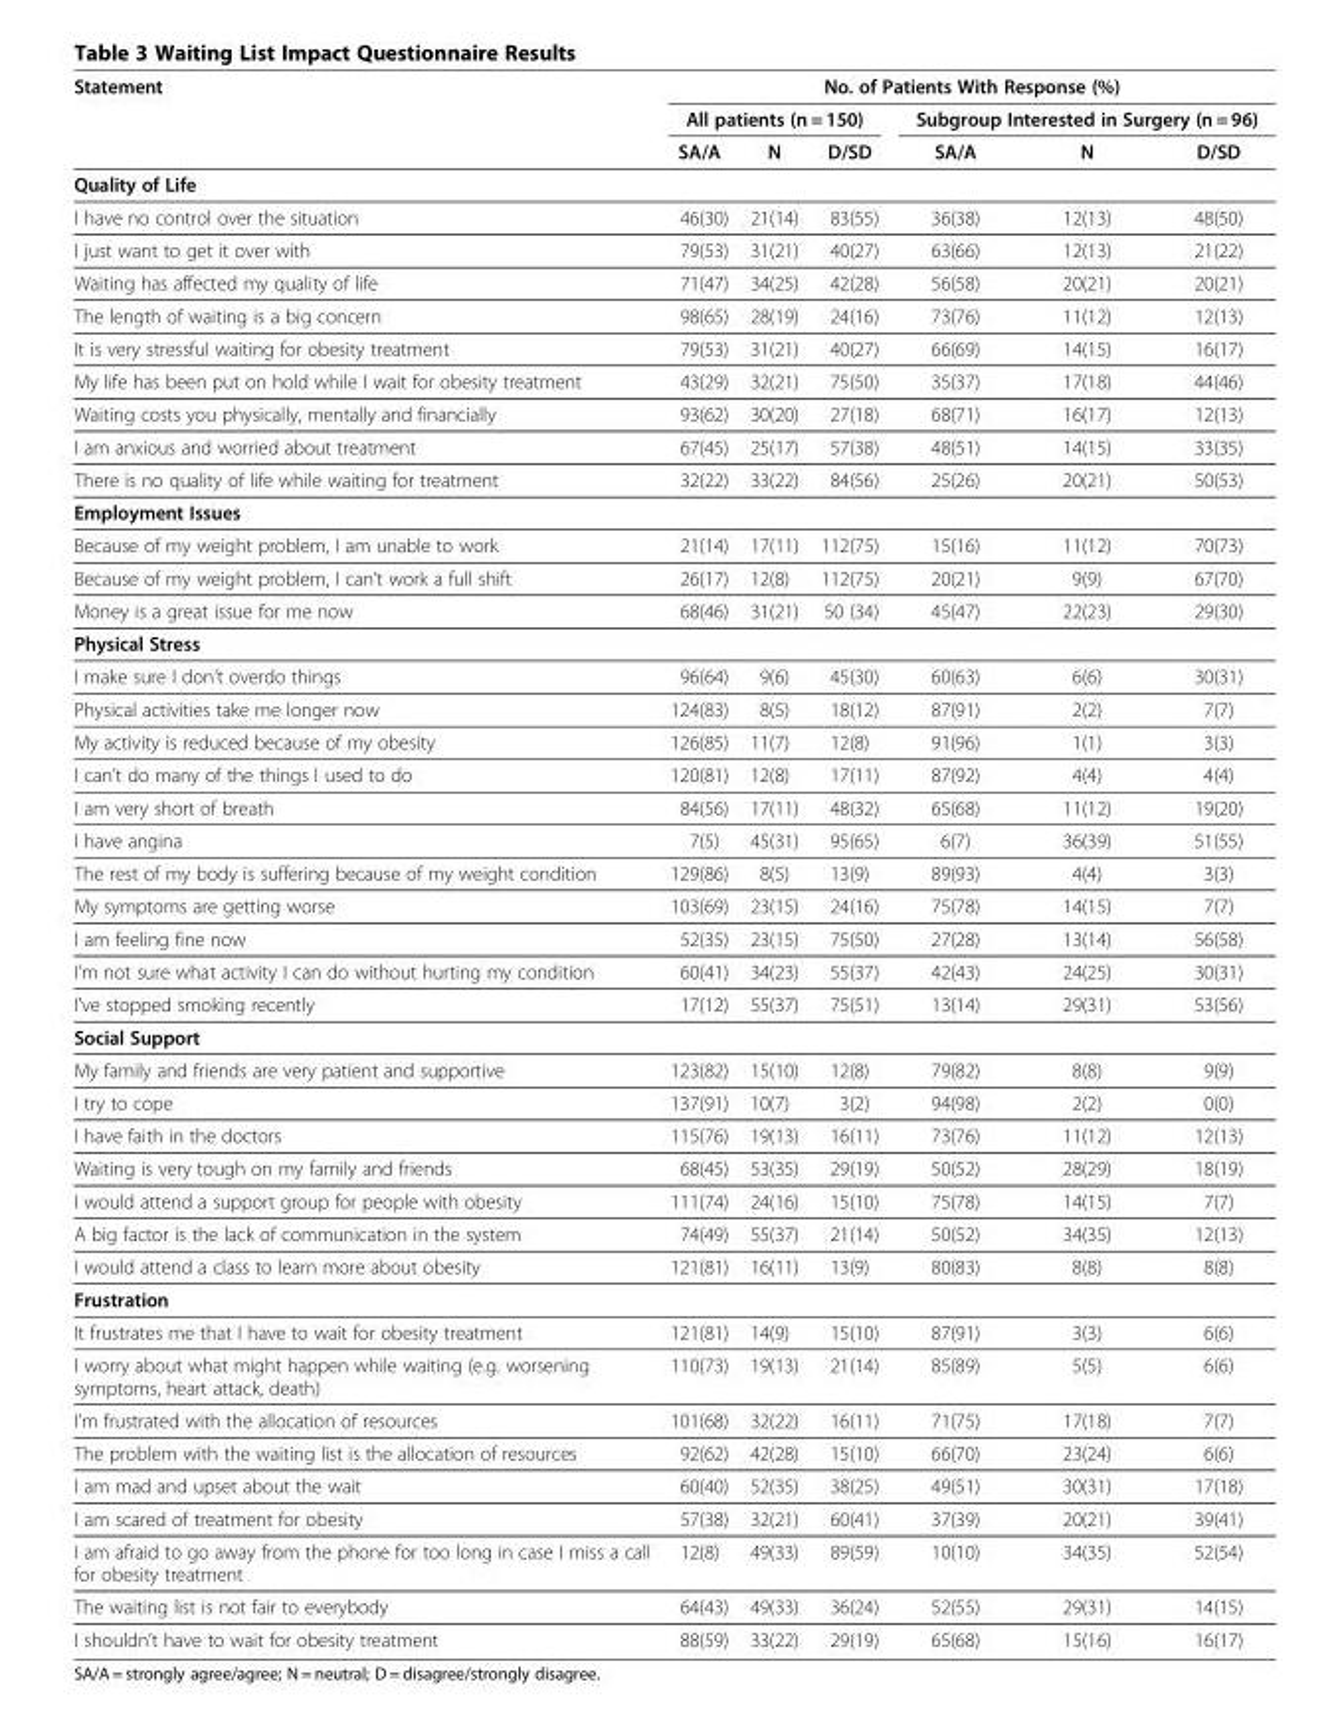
<table><thead><tr><td rowspan="3">Statement</td><td colspan="6">No. of Patients With Response (%)</td></tr><tr><td colspan="3">All patients (n = 150)</td><td colspan="3">Subgroup Interested in Surgery (n = 96)</td></tr><tr><td>SA/A</td><td>N</td><td>D/SD</td><td>SA/A</td><td>N</td><td>D/SD</td></tr></thead><tbody><tr><td colspan="7">Quality of Life</td></tr><tr><td>I have no control over the situation</td><td>46(30)</td><td>21(14)</td><td>83(55)</td><td>36(38)</td><td>12(13)</td><td>48(50)</td></tr><tr><td>I just want to get it over with</td><td>79(53)</td><td>31(21)</td><td>40(27)</td><td>63(66)</td><td>12(13)</td><td>21(22)</td></tr><tr><td>Waiting has affected my quality of life</td><td>71(47)</td><td>34(25)</td><td>42(28)</td><td>56(58)</td><td>20(21)</td><td>20(21)</td></tr><tr><td>The length of waiting is a big concern</td><td>98(65)</td><td>28(19)</td><td>24(16)</td><td>73(76)</td><td>11(12)</td><td>12(13)</td></tr><tr><td>It is very stressful waiting for obesity treatment</td><td>79(53)</td><td>31(21)</td><td>40(27)</td><td>66(69)</td><td>14(15)</td><td>16(17)</td></tr><tr><td>My life has been put on hold while I wait for obesity treatment</td><td>43(29)</td><td>32(21)</td><td>75(50)</td><td>35(37)</td><td>17(18)</td><td>44(46)</td></tr><tr><td>Waiting costs you physically, mentally and financially</td><td>93(62)</td><td>30(20)</td><td>27(18)</td><td>68(71)</td><td>16(17)</td><td>12(13)</td></tr><tr><td>I am anxious and worried about treatment</td><td>67(45)</td><td>25(17)</td><td>57(38)</td><td>48(51)</td><td>14(15)</td><td>33(35)</td></tr><tr><td>There is no quality of life while waiting for treatment</td><td>32(22)</td><td>33(22)</td><td>84(56)</td><td>25(26)</td><td>20(21)</td><td>50(53)</td></tr><tr><td colspan="7">Employment Issues</td></tr><tr><td>Because of my weight problem, I am unable to work</td><td>21(14)</td><td>17(11)</td><td>112(75)</td><td>15(16)</td><td>11(12)</td><td>70(73)</td></tr><tr><td>Because of my weight problem, I can’t work a full shift</td><td>26(17)</td><td>12(8)</td><td>112(75)</td><td>20(21)</td><td>9(9)</td><td>67(70)</td></tr><tr><td>Money is a great issue for me now</td><td>68(46)</td><td>31(21)</td><td>50 (34)</td><td>45(47)</td><td>22(23)</td><td>29(30)</td></tr><tr><td colspan="7">Physical Stress</td></tr><tr><td>I make sure I don’t overdo things</td><td>96(64)</td><td>9(6)</td><td>45(30)</td><td>60(63)</td><td>6(6)</td><td>30(31)</td></tr><tr><td>Physical activities take me longer now</td><td>124(83)</td><td>8(5)</td><td>18(12)</td><td>87(91)</td><td>2(2)</td><td>7(7)</td></tr><tr><td>My activity is reduced because of my obesity</td><td>126(85)</td><td>11(7)</td><td>12(8)</td><td>91(96)</td><td>1(1)</td><td>3(3)</td></tr><tr><td>I can’t do many of the things I used to do</td><td>120(81)</td><td>12(8)</td><td>17(11)</td><td>87(92)</td><td>4(4)</td><td>4(4)</td></tr><tr><td>I am very short of breath</td><td>84(56)</td><td>17(11)</td><td>48(32)</td><td>65(68)</td><td>11(12)</td><td>19(20)</td></tr><tr><td>I have angina</td><td>7(5)</td><td>45(31)</td><td>95(65)</td><td>6(7)</td><td>36(39)</td><td>51(55)</td></tr><tr><td>The rest of my body is suffering because of my weight condition</td><td>129(86)</td><td>8(5)</td><td>13(9)</td><td>89(93)</td><td>4(4)</td><td>3(3)</td></tr><tr><td>My symptoms are getting worse</td><td>103(69)</td><td>23(15)</td><td>24(16)</td><td>75(78)</td><td>14(15)</td><td>7(7)</td></tr><tr><td>I am feeling fine now</td><td>52(35)</td><td>23(15)</td><td>75(50)</td><td>27(28)</td><td>13(14)</td><td>56(58)</td></tr><tr><td>I’m not sure what activity I can do without hurting my condition</td><td>60(41)</td><td>34(23)</td><td>55(37)</td><td>42(43)</td><td>24(25)</td><td>30(31)</td></tr><tr><td>I’ve stopped smoking recently</td><td>17(12)</td><td>55(37)</td><td>75(51)</td><td>13(14)</td><td>29(31)</td><td>53(56)</td></tr><tr><td colspan="7">Social Support</td></tr><tr><td>My family and friends are very patient and supportive</td><td>123(82)</td><td>15(10)</td><td>12(8)</td><td>79(82)</td><td>8(8)</td><td>9(9)</td></tr><tr><td>I try to cope</td><td>137(91)</td><td>10(7)</td><td>3(2)</td><td>94(98)</td><td>2(2)</td><td>0(0)</td></tr><tr><td>I have faith in the doctors</td><td>115(76)</td><td>19(13)</td><td>16(11)</td><td>73(76)</td><td>11(12)</td><td>12(13)</td></tr><tr><td>Waiting is very tough on my family and friends</td><td>68(45)</td><td>53(35)</td><td>29(19)</td><td>50(52)</td><td>28(29)</td><td>18(19)</td></tr><tr><td>I would attend a support group for people with obesity</td><td>111(74)</td><td>24(16)</td><td>15(10)</td><td>75(78)</td><td>14(15)</td><td>7(7)</td></tr><tr><td>A big factor is the lack of communication in the system</td><td>74(49)</td><td>55(37)</td><td>21(14)</td><td>50(52)</td><td>34(35)</td><td>12(13)</td></tr><tr><td>I would attend a class to learn more about obesity</td><td>121(81)</td><td>16(11)</td><td>13(9)</td><td>80(83)</td><td>8(8)</td><td>8(8)</td></tr><tr><td colspan="7">Frustration</td></tr><tr><td>It frustrates me that I have to wait for obesity treatment</td><td>121(81)</td><td>14(9)</td><td>15(10)</td><td>87(91)</td><td>3(3)</td><td>6(6)</td></tr><tr><td>I worry about what might happen while waiting (e.g. worsening symptoms, heart attack, death)</td><td>110(73)</td><td>19(13)</td><td>21(14)</td><td>85(89)</td><td>5(5)</td><td>6(6)</td></tr><tr><td>I’m frustrated with the allocation of resources</td><td>101(68)</td><td>32(22)</td><td>16(11)</td><td>71(75)</td><td>17(18)</td><td>7(7)</td></tr><tr><td>The problem with the waiting list is the allocation of resources</td><td>92(62)</td><td>42(28)</td><td>15(10)</td><td>66(70)</td><td>23(24)</td><td>6(6)</td></tr><tr><td>I am mad and upset about the wait</td><td>60(40)</td><td>52(35)</td><td>38(25)</td><td>49(51)</td><td>30(31)</td><td>17(18)</td></tr><tr><td>I am scared of treatment for obesity</td><td>57(38)</td><td>32(21)</td><td>60(41)</td><td>37(39)</td><td>20(21)</td><td>39(41)</td></tr><tr><td>I am afraid to go away from the phone for too long in case I miss a call for obesity treatment</td><td>12(8)</td><td>49(33)</td><td>89(59)</td><td>10(10)</td><td>34(35)</td><td>52(54)</td></tr><tr><td>The waiting list is not fair to everybody</td><td>64(43)</td><td>49(33)</td><td>36(24)</td><td>52(55)</td><td>29(31)</td><td>14(15)</td></tr><tr><td>I shouldn’t have to wait for obesity treatment</td><td>88(59)</td><td>33(22)</td><td>29(19)</td><td>65(68)</td><td>15(16)</td><td>16(17)</td></tr></tbody></table>